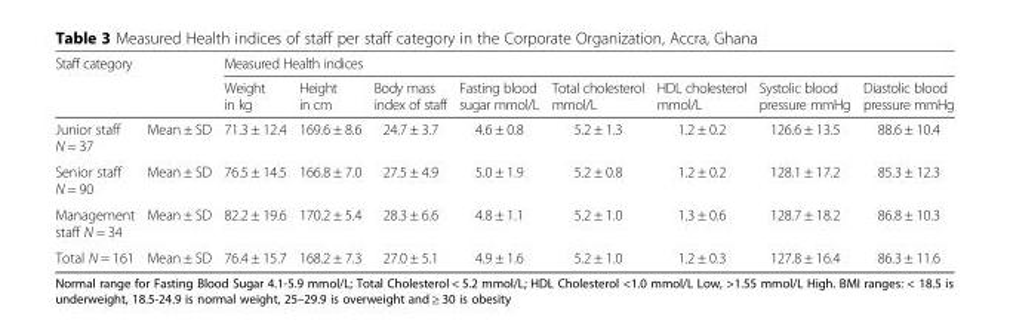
<table><thead><tr><td rowspan="2">Staff category</td><td rowspan="2"></td><td colspan="8">Measured Health indices</td></tr><tr><td>Weight in kg</td><td>Height in cm</td><td>Body mass index of staff</td><td>Fasting blood sugar mmol/L</td><td>Total cholesterol mmol/L</td><td>HDL cholesterol mmol/L</td><td>Systolic blood pressure mmHg</td><td>Diastolic blood pressure mmHg</td></tr></thead><tbody><tr><td>Junior staff N = 37</td><td>Mean ± SD</td><td>71.3 ± 12.4</td><td>169.6 ± 8.6</td><td>24.7 ± 3.7</td><td>4.6 ± 0.8</td><td>5.2 ± 1.3</td><td>1.2 ± 0.2</td><td>126.6 ± 13.5</td><td>88.6 ± 10.4</td></tr><tr><td>Senior staff N = 90</td><td>Mean ± SD</td><td>76.5 ± 14.5</td><td>166.8 ± 7.0</td><td>27.5 ± 4.9</td><td>5.0 ± 1.9</td><td>5.2 ± 0.8</td><td>1.2 ± 0.2</td><td>128.1 ± 17.2</td><td>85.3 ± 12.3</td></tr><tr><td>Management staff N = 34</td><td>Mean ± SD</td><td>82.2 ± 19.6</td><td>170.2 ± 5.4</td><td>28.3 ± 6.6</td><td>4.8 ± 1.1</td><td>5.2 ± 1.0</td><td>1.3 ± 0.6</td><td>128.7 ± 18.2</td><td>86.8 ± 10.3</td></tr><tr><td>Total N = 161</td><td>Mean ± SD</td><td>76.4 ± 15.7</td><td>168.2 ± 7.3</td><td>27.0 ± 5.1</td><td>4.9 ± 1.6</td><td>5.2 ± 1.0</td><td>1.2 ± 0.3</td><td>127.8 ± 16.4</td><td>86.3 ± 11.6</td></tr></tbody></table>